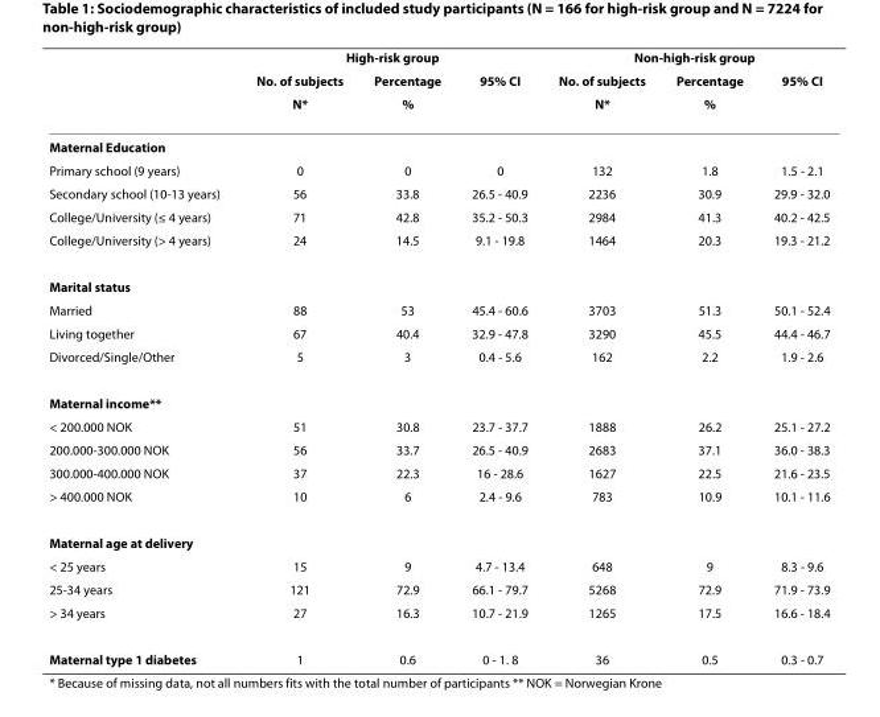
<table><thead><tr><td rowspan="3"></td><td colspan="3">High-risk group</td><td colspan="3">Non-high-risk group</td></tr><tr><td rowspan="2">No. of subjects N*</td><td rowspan="2">Percentage %</td><td rowspan="2">95% CI</td><td rowspan="2">No. of subjects N*</td><td rowspan="2">Percentage %</td><td rowspan="2">95% CI</td></tr><tr></tr></thead><tbody><tr><td colspan="7">Maternal Education</td></tr><tr><td>Primary school (9 years)</td><td>0</td><td>0</td><td>0</td><td>132</td><td>1.8</td><td>1.5 - 2.1</td></tr><tr><td>Secondary school (10-13 years)</td><td>56</td><td>33.8</td><td>26.5 - 40.9</td><td>2236</td><td>30.9</td><td>29.9 - 32.0</td></tr><tr><td>College/University (≤ 4 years)</td><td>71</td><td>42.8</td><td>35.2 - 50.3</td><td>2984</td><td>41.3</td><td>40.2 - 42.5</td></tr><tr><td>College/University (&gt; 4 years)</td><td>24</td><td>14.5</td><td>9.1 - 19.8</td><td>1464</td><td>20.3</td><td>19.3 - 21.2</td></tr><tr><td colspan="7">Marital status</td></tr><tr><td>Married</td><td>88</td><td>53</td><td>45.4 - 60.6</td><td>3703</td><td>51.3</td><td>50.1 - 52.4</td></tr><tr><td>Living together</td><td>67</td><td>40.4</td><td>32.9 - 47.8</td><td>3290</td><td>45.5</td><td>44.4 - 46.7</td></tr><tr><td>Divorced/Single/Other</td><td>5</td><td>3</td><td>0.4 - 5.6</td><td>162</td><td>2.2</td><td>1.9 - 2.6</td></tr><tr><td colspan="7">Maternal income**</td></tr><tr><td>&lt; 200.000 NOK</td><td>51</td><td>30.8</td><td>23.7 - 37.7</td><td>1888</td><td>26.2</td><td>25.1 - 27.2</td></tr><tr><td>200.000-300.000 NOK</td><td>56</td><td>33.7</td><td>26.5 - 40.9</td><td>2683</td><td>37.1</td><td>36.0 - 38.3</td></tr><tr><td>300.000-400.000 NOK</td><td>37</td><td>22.3</td><td>16 - 28.6</td><td>1627</td><td>22.5</td><td>21.6 - 23.5</td></tr><tr><td>&gt; 400.000 NOK</td><td>10</td><td>6</td><td>2.4 - 9.6</td><td>783</td><td>10.9</td><td>10.1 - 11.6</td></tr><tr><td colspan="7">Maternal age at delivery</td></tr><tr><td>&lt; 25 years</td><td>15</td><td>9</td><td>4.7 - 13.4</td><td>648</td><td>9</td><td>8.3 - 9.6</td></tr><tr><td>25-34 years</td><td>121</td><td>72.9</td><td>66.1 - 79.7</td><td>5268</td><td>72.9</td><td>71.9 - 73.9</td></tr><tr><td>&gt; 34 years</td><td>27</td><td>16.3</td><td>10.7 - 21.9</td><td>1265</td><td>17.5</td><td>16.6 - 18.4</td></tr><tr><td>Maternal type 1 diabetes</td><td>1</td><td>0.6</td><td>0 - 1. 8</td><td>36</td><td>0.5</td><td>0.3 - 0.7</td></tr></tbody></table>